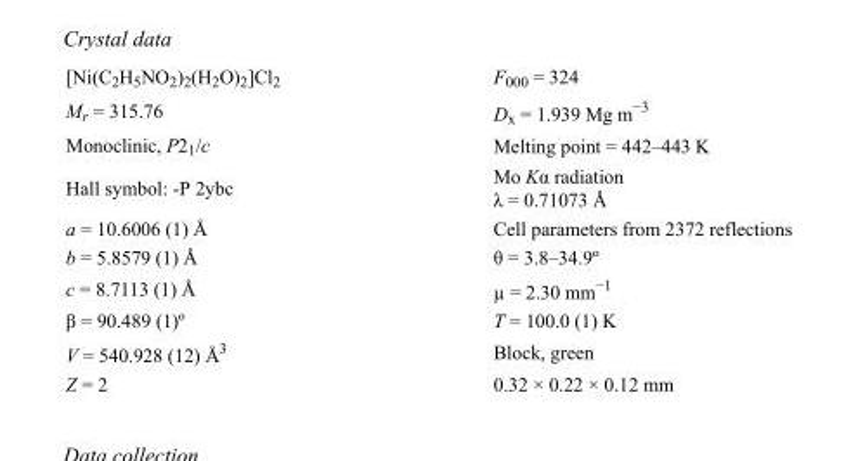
<table><tbody><tr><td>[Ni(C<sub>2</sub>H<sub>5</sub>NO<sub>2</sub>)<sub>2</sub>(H<sub>2</sub>O)<sub>2</sub>]Cl<sub>2</sub></td><td>F<sub>000</sub> = 324</td></tr><tr><td>M<sub>r</sub> = 315.76</td><td>D<sub>x</sub> = 1.939 Mg m<sup>−3</sup></td></tr><tr><td>Monoclinic, P2<sub>1</sub>/c</td><td>Melting point = 442–443 K</td></tr><tr><td>Hall symbol: -P 2ybc</td><td>Mo Kα radiation λ = 0.71073 Å</td></tr><tr><td>a = 10.6006 (1) Å</td><td>Cell parameters from 2372 reflections</td></tr><tr><td>b = 5.8579 (1) Å</td><td>θ = 3.8–34.9º</td></tr><tr><td>c = 8.7113 (1) Å</td><td>µ = 2.30 mm<sup>−1</sup></td></tr><tr><td>β = 90.489 (1)º</td><td>T = 100.0 (1) K</td></tr><tr><td>V = 540.928 (12) Å<sup>3</sup></td><td>Block, green</td></tr><tr><td>Z = 2</td><td>0.32 × 0.22 × 0.12 mm</td></tr></tbody></table>